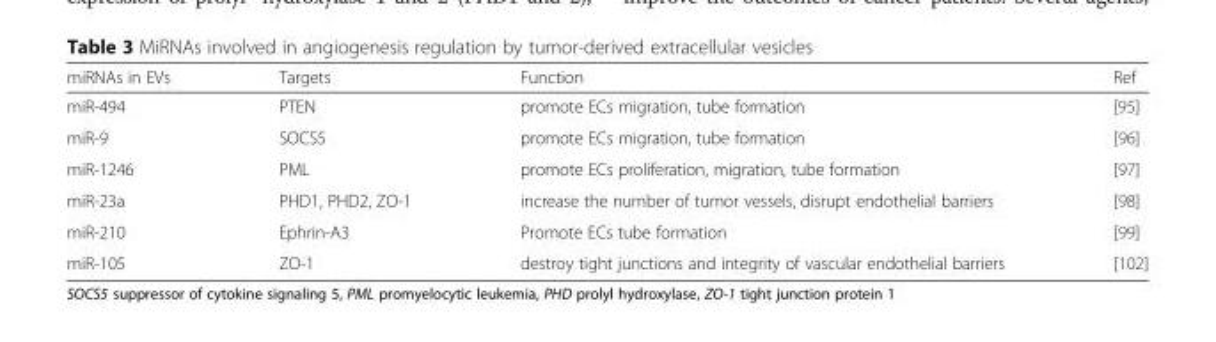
<table><thead><tr><td>miRNAs in EVs</td><td>Targets</td><td>Function</td><td>Ref</td></tr></thead><tbody><tr><td>miR-494</td><td>PTEN</td><td>promote ECs migration, tube formation</td><td>[95]</td></tr><tr><td>miR-9</td><td>SOCS5</td><td>promote ECs migration, tube formation</td><td>[96]</td></tr><tr><td>miR-1246</td><td>PML</td><td>promote ECs proliferation, migration, tube formation</td><td>[97]</td></tr><tr><td>miR-23a</td><td>PHD1, PHD2, ZO-1</td><td>increase the number of tumor vessels, disrupt endothelial barriers</td><td>[98]</td></tr><tr><td>miR-210</td><td>Ephrin-A3</td><td>Promote ECs tube formation</td><td>[99]</td></tr><tr><td>miR-105</td><td>ZO-1</td><td>destroy tight junctions and integrity of vascular endothelial barriers</td><td>[102]</td></tr></tbody></table>